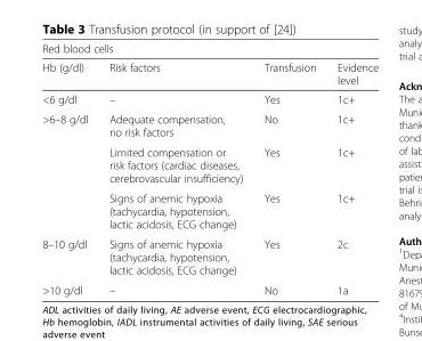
<table><thead><tr><td colspan="4">Red blood cells</td></tr><tr><td>Hb (g/dl)</td><td>Risk factors</td><td>Transfusion</td><td>Evidence level</td></tr></thead><tbody><tr><td>&lt;6 g/dl</td><td>–</td><td>Yes</td><td>1c+</td></tr><tr><td rowspan="3">&gt;6–8 g/dl</td><td>Adequate compensation, no risk factors</td><td>No</td><td>1c+</td></tr><tr><td>Limited compensation or risk factors (cardiac diseases, cerebrovascular insufficiency)</td><td>Yes</td><td>1c+</td></tr><tr><td>Signs of anemic hypoxia (tachycardia, hypotension, lactic acidosis, ECG change)</td><td>Yes</td><td>1c+</td></tr><tr><td>8–10 g/dl</td><td>Signs of anemic hypoxia (tachycardia, hypotension, lactic acidosis, ECG change)</td><td>Yes</td><td>2c</td></tr><tr><td>&gt;10 g/dl</td><td>–</td><td>No</td><td>1a</td></tr></tbody></table>